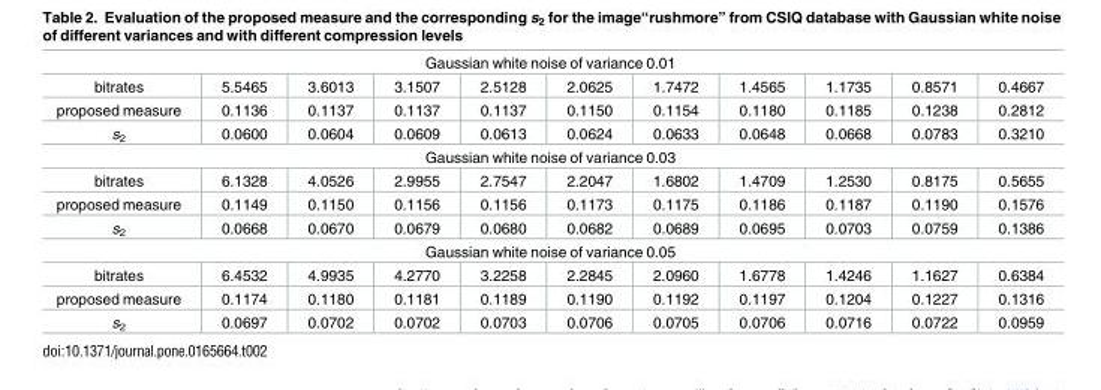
<table><tbody><tr><td colspan="11">Gaussian white noise of variance 0.01</td></tr><tr><td>bitrates</td><td>5.5465</td><td>3.6013</td><td>3.1507</td><td>2.5128</td><td>2.0625</td><td>1.7472</td><td>1.4565</td><td>1.1735</td><td>0.8571</td><td>0.4667</td></tr><tr><td>proposed measure</td><td>0.1136</td><td>0.1137</td><td>0.1137</td><td>0.1137</td><td>0.1150</td><td>0.1154</td><td>0.1180</td><td>0.1185</td><td>0.1238</td><td>0.2812</td></tr><tr><td>s<sub>2</sub></td><td>0.0600</td><td>0.0604</td><td>0.0609</td><td>0.0613</td><td>0.0624</td><td>0.0633</td><td>0.0648</td><td>0.0668</td><td>0.0783</td><td>0.3210</td></tr><tr><td colspan="11">Gaussian white noise of variance 0.03</td></tr><tr><td>bitrates</td><td>6.1328</td><td>4.0526</td><td>2.9955</td><td>2.7547</td><td>2.2047</td><td>1.6802</td><td>1.4709</td><td>1.2530</td><td>0.8175</td><td>0.5655</td></tr><tr><td>proposed measure</td><td>0.1149</td><td>0.1150</td><td>0.1156</td><td>0.1156</td><td>0.1173</td><td>0.1175</td><td>0.1186</td><td>0.1187</td><td>0.1190</td><td>0.1576</td></tr><tr><td>s<sub>2</sub></td><td>0.0668</td><td>0.0670</td><td>0.0679</td><td>0.0680</td><td>0.0682</td><td>0.0689</td><td>0.0695</td><td>0.0703</td><td>0.0759</td><td>0.1386</td></tr><tr><td colspan="11">Gaussian white noise of variance 0.05</td></tr><tr><td>bitrates</td><td>6.4532</td><td>4.9935</td><td>4.2770</td><td>3.2258</td><td>2.2845</td><td>2.0960</td><td>1.6778</td><td>1.4246</td><td>1.1627</td><td>0.6384</td></tr><tr><td>proposed measure</td><td>0.1174</td><td>0.1180</td><td>0.1181</td><td>0.1189</td><td>0.1190</td><td>0.1192</td><td>0.1197</td><td>0.1204</td><td>0.1227</td><td>0.1316</td></tr><tr><td>s<sub>2</sub></td><td>0.0697</td><td>0.0702</td><td>0.0702</td><td>0.0703</td><td>0.0706</td><td>0.0705</td><td>0.0706</td><td>0.0716</td><td>0.0722</td><td>0.0959</td></tr></tbody></table>